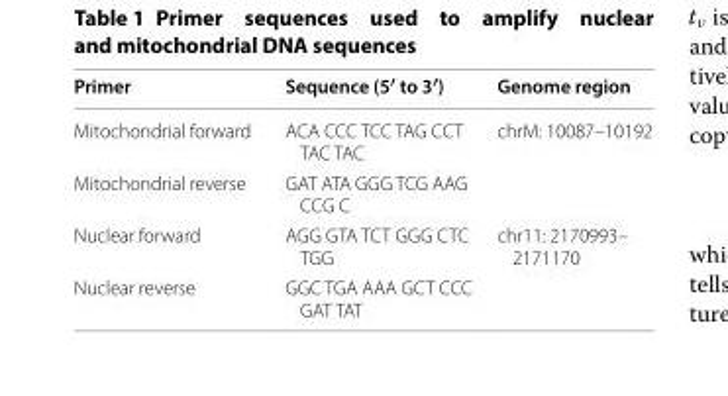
<table><thead><tr><td>Primer</td><td>Sequence (5′ to 3′)</td><td>Genome region</td></tr></thead><tbody><tr><td>Mitochondrial forward</td><td>ACA CCC TCC TAG CCT TAC TAC</td><td>chrM: 10087–10192</td></tr><tr><td>Mitochondrial reverse</td><td>GAT ATA GGG TCG AAG CCG C</td><td></td></tr><tr><td>Nuclear forward</td><td>AGG GTA TCT GGG CTC TGG</td><td>chr11: 2170993– 2171170</td></tr><tr><td>Nuclear reverse</td><td>GGC TGA AAA GCT CCC GAT TAT</td><td></td></tr></tbody></table>